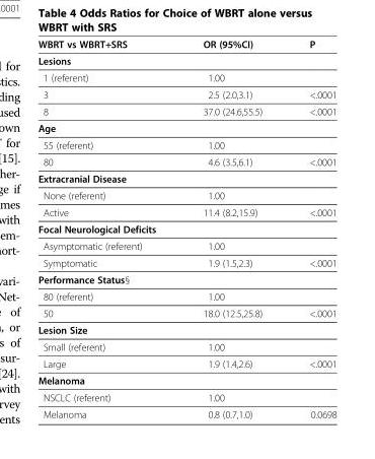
<table><thead><tr><td>WBRT vs WBRT+SRS</td><td>OR (95%CI)</td><td>P</td></tr></thead><tbody><tr><td colspan="3">Lesions</td></tr><tr><td>1 (referent)</td><td>1.00</td><td></td></tr><tr><td>3</td><td>2.5 (2.0,3.1)</td><td>&lt;.0001</td></tr><tr><td>8</td><td>37.0 (24.6,55.5)</td><td>&lt;.0001</td></tr><tr><td colspan="3">Age</td></tr><tr><td>55 (referent)</td><td>1.00</td><td></td></tr><tr><td>80</td><td>4.6 (3.5,6.1)</td><td>&lt;.0001</td></tr><tr><td colspan="3">Extracranial Disease</td></tr><tr><td>None (referent)</td><td>1.00</td><td></td></tr><tr><td>Active</td><td>11.4 (8.2,15.9)</td><td>&lt;.0001</td></tr><tr><td colspan="3">Focal Neurological Deficits</td></tr><tr><td>Asymptomatic (referent)</td><td>1.00</td><td></td></tr><tr><td>Symptomatic</td><td>1.9 (1.5,2.3)</td><td>&lt;.0001</td></tr><tr><td colspan="3">Performance Status§</td></tr><tr><td>80 (referent)</td><td>1.00</td><td></td></tr><tr><td>50</td><td>18.0 (12.5,25.8)</td><td>&lt;.0001</td></tr><tr><td colspan="3">Lesion Size</td></tr><tr><td>Small (referent)</td><td>1.00</td><td></td></tr><tr><td>Large</td><td>1.9 (1.4,2.6)</td><td>&lt;.0001</td></tr><tr><td colspan="3">Melanoma</td></tr><tr><td>NSCLC (referent)</td><td>1.00</td><td></td></tr><tr><td>Melanoma</td><td>0.8 (0.7,1.0)</td><td>0.0698</td></tr></tbody></table>